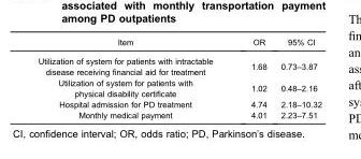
<table><thead><tr><td>Item</td><td>OR</td><td>95% CI</td></tr></thead><tbody><tr><td>Utilization of system for patients with intractable disease receiving financial aid for treatment</td><td>1.68</td><td>0.73–3.87</td></tr><tr><td>Utilization of system for patients with physical disability certificate</td><td>1.02</td><td>0.48–2.16</td></tr><tr><td>Hospital admission for PD treatment</td><td>4.74</td><td>2.18–10.32</td></tr><tr><td>Monthly medical payment</td><td>4.01</td><td>2.23–7.51</td></tr></tbody></table>